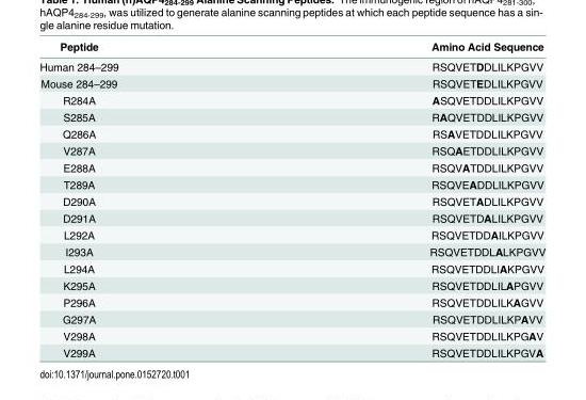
<table><thead><tr><td>Peptide</td><td>Amino Acid Sequence</td></tr></thead><tbody><tr><td>Human 284–299</td><td>RSQVETDDLILKPGVV</td></tr><tr><td>Mouse 284–299</td><td>RSQVETEDLILKPGVV</td></tr><tr><td>R284A</td><td>ASQVETDDLILKPGVV</td></tr><tr><td>S285A</td><td>RAQVETDDLILKPGVV</td></tr><tr><td>Q286A</td><td>RSAVETDDLILKPGVV</td></tr><tr><td>V287A</td><td>RSQAETDDLILKPGVV</td></tr><tr><td>E288A</td><td>RSQVATDDLILKPGVV</td></tr><tr><td>T289A</td><td>RSQVEADDLILKPGVV</td></tr><tr><td>D290A</td><td>RSQVETADLILKPGVV</td></tr><tr><td>D291A</td><td>RSQVETDALILKPGVV</td></tr><tr><td>L292A</td><td>RSQVETDDAILKPGVV</td></tr><tr><td>I293A</td><td>RSQVETDDLALKPGVV</td></tr><tr><td>L294A</td><td>RSQVETDDLIAKPGVV</td></tr><tr><td>K295A</td><td>RSQVETDDLILAPGVV</td></tr><tr><td>P296A</td><td>RSQVETDDLILKAGVV</td></tr><tr><td>G297A</td><td>RSQVETDDLILKPAVV</td></tr><tr><td>V298A</td><td>RSQVETDDLILKPGAV</td></tr><tr><td>V299A</td><td>RSQVETDDLILKPGVA</td></tr></tbody></table>